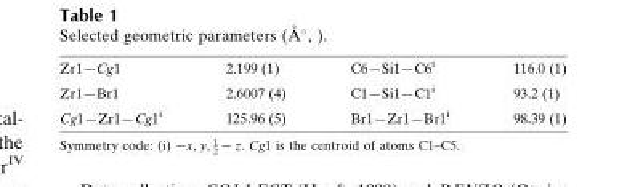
<table><tbody><tr><td>Zr1—Cg1</td><td>2.199 (1)</td><td>C6—Si1—C6<sup>i</sup></td><td>116.0 (1)</td></tr><tr><td>Zr1—Br1</td><td>2.6007 (4)</td><td>C1—Si1—C1<sup>i</sup></td><td>93.2 (1)</td></tr><tr><td>Cg1—Zr1—Cg1<sup>i</sup></td><td>125.96 (5)</td><td>Br1—Zr1—Br1<sup>i</sup></td><td>98.39 (1)</td></tr></tbody></table>